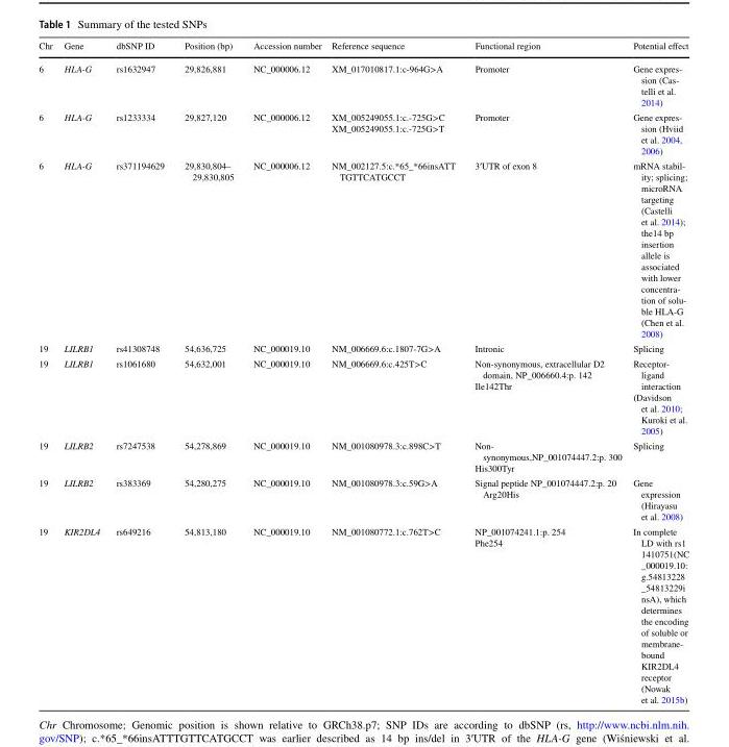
<table><thead><tr><td>Chr</td><td>Gene</td><td>dbSNP ID</td><td>Position (bp)</td><td>Accession number</td><td>Reference sequence</td><td>Functional region</td><td>Potential effect</td></tr></thead><tbody><tr><td>6</td><td>HLA-G</td><td>rs1632947</td><td>29,826,881</td><td>NC_000006.12</td><td>XM_017010817.1:c-964G&gt;A</td><td>Promoter</td><td>Gene expres- sion (Cas- telli et al. 2014)</td></tr><tr><td>6</td><td>HLA-G</td><td>rs1233334</td><td>29,827,120</td><td>NC_000006.12</td><td>XM_005249055.1:c.-725G&gt;C XM_005249055.1:c.-725G&gt;T</td><td>Promoter</td><td>Gene expres- sion (Hviid et al. 2004, 2006)</td></tr><tr><td>6</td><td>HLA-G</td><td>rs371194629</td><td>29,830,804– 29,830,805</td><td>NC_000006.12</td><td>NM_002127.5:c.*65_*66insATT TGT TCA TGC CT</td><td>3′UTR of exon 8</td><td>mRNA stabil- ity; splicing; microRNA targeting (Castelli et al. 2014); the14 bp insertion allele is associated with lower concentra- tion of solu- ble HLA-G (Chen et al. 2008)</td></tr><tr><td>19</td><td>LILRB1</td><td>rs41308748</td><td>54,636,725</td><td>NC_000019.10</td><td>NM_006669.6:c.1807-7G&gt;A</td><td>Intronic</td><td>Splicing</td></tr><tr><td>19</td><td>LILRB1</td><td>rs1061680</td><td>54,632,001</td><td>NC_000019.10</td><td>NM_006669.6:c.425T&gt;C</td><td>Non-synonymous, extracellular D2 domain, NP_006660.4:p. 142 Ile142Thr</td><td>Receptor- ligand interaction (Davidson et al. 2010; Kuroki et al. 2005)</td></tr><tr><td>19</td><td>LILRB2</td><td>rs7247538</td><td>54,278,869</td><td>NC_000019.10</td><td>NM_001080978.3:c.898C&gt;T</td><td>Non- synonymous,NP_001074447.2:p. 300 His300Tyr</td><td>Splicing</td></tr><tr><td>19</td><td>LILRB2</td><td>rs383369</td><td>54,280,275</td><td>NC_000019.10</td><td>NM_001080978.3:c.59G&gt;A</td><td>Signal peptide NP_001074447.2:p. 20 Arg20His</td><td>Gene expression (Hirayasu et al. 2008)</td></tr><tr><td>19</td><td>KIR2DL4</td><td>rs649216</td><td>54,813,180</td><td>NC_000019.10</td><td>NM_001080772.1:c.762T&gt;C</td><td>NP_001074241.1:p. 254 Phe254</td><td>In complete LD with rs1 1410751(NC _000019.10: g.54813228 _54813229i nsA), which determines the encoding of soluble or membrane- bound KIR2DL4 receptor (Nowak et al. 2015b)</td></tr></tbody></table>